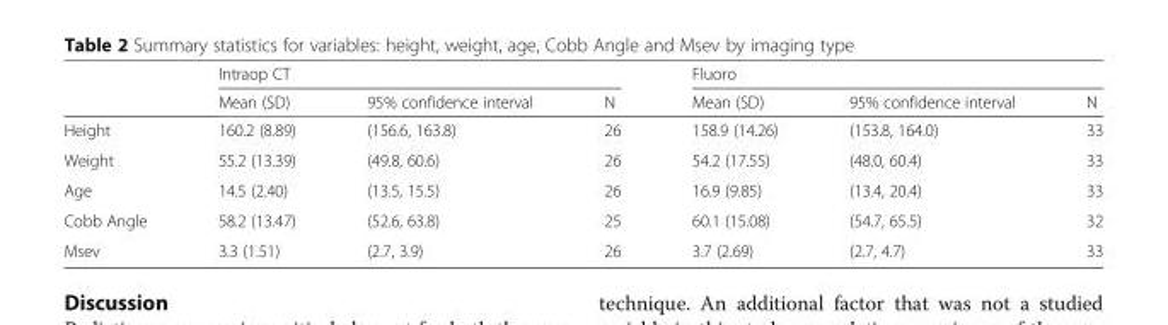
<table><thead><tr><td rowspan="2"></td><td colspan="3">Intraop CT</td><td colspan="3">Fluoro</td></tr><tr><td>Mean (SD)</td><td>95% confidence interval</td><td>N</td><td>Mean (SD)</td><td>95% confidence interval</td><td>N</td></tr></thead><tbody><tr><td>Height</td><td>160.2 (8.89)</td><td>(156.6, 163.8)</td><td>26</td><td>158.9 (14.26)</td><td>(153.8, 164.0)</td><td>33</td></tr><tr><td>Weight</td><td>55.2 (13.39)</td><td>(49.8, 60.6)</td><td>26</td><td>54.2 (17.55)</td><td>(48.0, 60.4)</td><td>33</td></tr><tr><td>Age</td><td>14.5 (2.40)</td><td>(13.5, 15.5)</td><td>26</td><td>16.9 (9.85)</td><td>(13.4, 20.4)</td><td>33</td></tr><tr><td>Cobb Angle</td><td>58.2 (13.47)</td><td>(52.6, 63.8)</td><td>25</td><td>60.1 (15.08)</td><td>(54.7, 65.5)</td><td>32</td></tr><tr><td>Msev</td><td>3.3 (1.51)</td><td>(2.7, 3.9)</td><td>26</td><td>3.7 (2.69)</td><td>(2.7, 4.7)</td><td>33</td></tr></tbody></table>